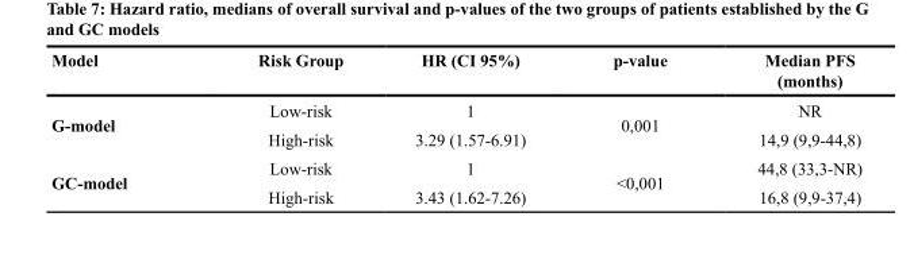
<table><thead><tr><td>Model</td><td>Risk Group</td><td>HR (CI 95%)</td><td>p-value</td><td>Median PFS (months)</td></tr></thead><tbody><tr><td rowspan="2">G-model</td><td>Low-risk</td><td>1</td><td rowspan="2">0,001</td><td>NR</td></tr><tr><td>High-risk</td><td>3.29 (1.57-6.91)</td><td>14,9 (9,9-44,8)</td></tr><tr><td rowspan="2">GC-model</td><td>Low-risk</td><td>1</td><td rowspan="2">&lt;0,001</td><td>44,8 (33,3-NR)</td></tr><tr><td>High-risk</td><td>3.43 (1.62-7.26)</td><td>16,8 (9,9-37,4)</td></tr></tbody></table>